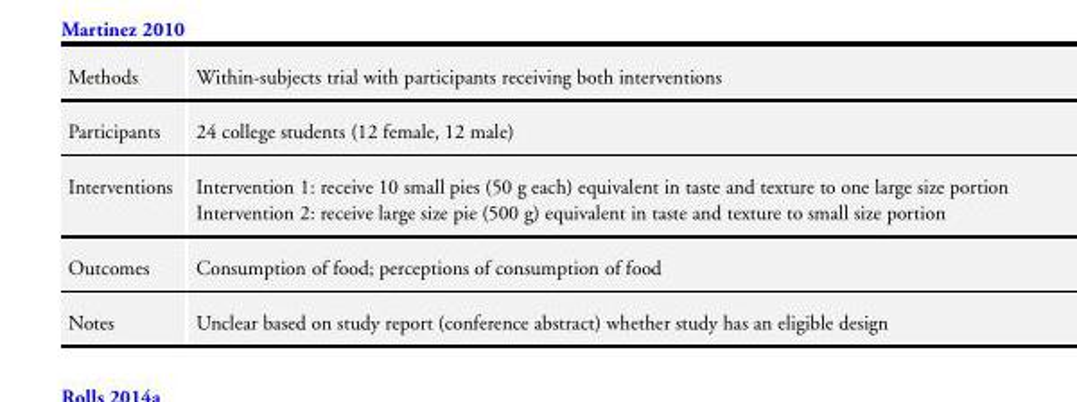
<table><tbody><tr><td>Methods</td><td>Within-subjects trial with participants receiving both interventions</td></tr><tr><td>Participants</td><td>24 college students (12 female, 12 male)</td></tr><tr><td>Interventions</td><td>Intervention 1: receive 10 small pies (50 g each) equivalent in taste and texture to one large size portion Intervention 2: receive large size pie (500 g) equivalent in taste and texture to small size portion</td></tr><tr><td>Outcomes</td><td>Consumption of food; perceptions of consumption of food</td></tr><tr><td>Notes</td><td>Unclear based on study report (conference abstract) whether study has an eligible design</td></tr></tbody></table>